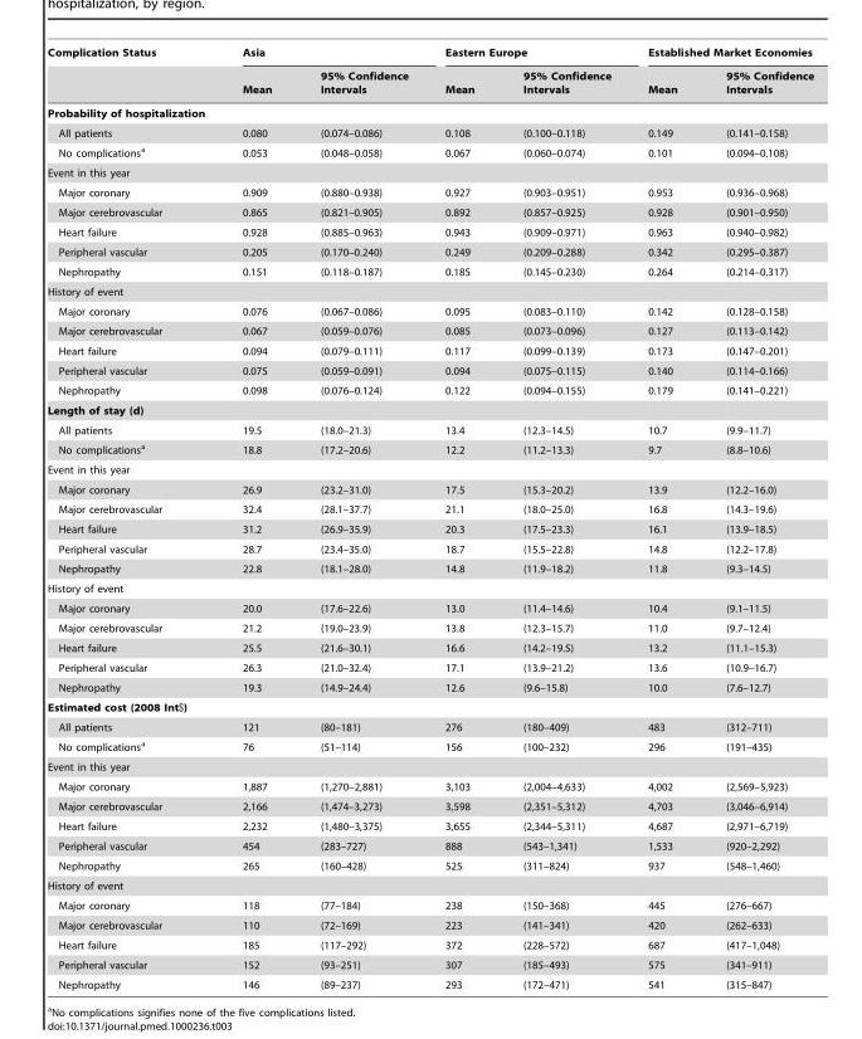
<table><thead><tr><td rowspan="2">Complication Status</td><td colspan="2">Asia</td><td colspan="2">Eastern Europe</td><td colspan="2">Established Market Economies</td></tr><tr><td>Mean</td><td>95% Confidence Intervals</td><td>Mean</td><td>95% Confidence Intervals</td><td>Mean</td><td>95% Confidence Intervals</td></tr></thead><tbody><tr><td colspan="7">Probability of hospitalization</td></tr><tr><td>All patients</td><td>0.080</td><td>(0.074–0.086)</td><td>0.108</td><td>(0.100–0.118)</td><td>0.149</td><td>(0.141–0.158)</td></tr><tr><td>No complications<sup>a</sup></td><td>0.053</td><td>(0.048–0.058)</td><td>0.067</td><td>(0.060–0.074)</td><td>0.101</td><td>(0.094–0.108)</td></tr><tr><td colspan="7">Event in this year</td></tr><tr><td>Major coronary</td><td>0.909</td><td>(0.880–0.938)</td><td>0.927</td><td>(0.903–0.951)</td><td>0.953</td><td>(0.936–0.968)</td></tr><tr><td>Major cerebrovascular</td><td>0.865</td><td>(0.821–0.905)</td><td>0.892</td><td>(0.857–0.925)</td><td>0.928</td><td>(0.901–0.950)</td></tr><tr><td>Heart failure</td><td>0.928</td><td>(0.885–0.963)</td><td>0.943</td><td>(0.909–0.971)</td><td>0.963</td><td>(0.940–0.982)</td></tr><tr><td>Peripheral vascular</td><td>0.205</td><td>(0.170–0.240)</td><td>0.249</td><td>(0.209–0.288)</td><td>0.342</td><td>(0.295–0.387)</td></tr><tr><td>Nephropathy</td><td>0.151</td><td>(0.118–0.187)</td><td>0.185</td><td>(0.145–0.230)</td><td>0.264</td><td>(0.214–0.317)</td></tr><tr><td colspan="7">History of event</td></tr><tr><td>Major coronary</td><td>0.076</td><td>(0.067–0.086)</td><td>0.095</td><td>(0.083–0.110)</td><td>0.142</td><td>(0.128–0.158)</td></tr><tr><td>Major cerebrovascular</td><td>0.067</td><td>(0.059–0.076)</td><td>0.085</td><td>(0.073–0.096)</td><td>0.127</td><td>(0.113–0.142)</td></tr><tr><td>Heart failure</td><td>0.094</td><td>(0.079–0.111)</td><td>0.117</td><td>(0.099–0.139)</td><td>0.173</td><td>(0.147–0.201)</td></tr><tr><td>Peripheral vascular</td><td>0.075</td><td>(0.059–0.091)</td><td>0.094</td><td>(0.075–0.115)</td><td>0.140</td><td>(0.114–0.166)</td></tr><tr><td>Nephropathy</td><td>0.098</td><td>(0.076–0.124)</td><td>0.122</td><td>(0.094–0.155)</td><td>0.179</td><td>(0.141–0.221)</td></tr><tr><td colspan="7">Length of stay (d)</td></tr><tr><td>All patients</td><td>19.5</td><td>(18.0–21.3)</td><td>13.4</td><td>(12.3–14.5)</td><td>10.7</td><td>(9.9–11.7)</td></tr><tr><td>No complications<sup>a</sup></td><td>18.8</td><td>(17.2–20.6)</td><td>12.2</td><td>(11.2–13.3)</td><td>9.7</td><td>(8.8–10.6)</td></tr><tr><td colspan="7">Event in this year</td></tr><tr><td>Major coronary</td><td>26.9</td><td>(23.2–31.0)</td><td>17.5</td><td>(15.3–20.2)</td><td>13.9</td><td>(12.2–16.0)</td></tr><tr><td>Major cerebrovascular</td><td>32.4</td><td>(28.1–37.7)</td><td>21.1</td><td>(18.0–25.0)</td><td>16.8</td><td>(14.3–19.6)</td></tr><tr><td>Heart failure</td><td>31.2</td><td>(26.9–35.9)</td><td>20.3</td><td>(17.5–23.3)</td><td>16.1</td><td>(13.9–18.5)</td></tr><tr><td>Peripheral vascular</td><td>28.7</td><td>(23.4–35.0)</td><td>18.7</td><td>(15.5–22.8)</td><td>14.8</td><td>(12.2–17.8)</td></tr><tr><td>Nephropathy</td><td>22.8</td><td>(18.1–28.0)</td><td>14.8</td><td>(11.9–18.2)</td><td>11.8</td><td>(9.3–14.5)</td></tr><tr><td colspan="7">History of event</td></tr><tr><td>Major coronary</td><td>20.0</td><td>(17.6–22.6)</td><td>13.0</td><td>(11.4–14.6)</td><td>10.4</td><td>(9.1–11.5)</td></tr><tr><td>Major cerebrovascular</td><td>21.2</td><td>(19.0–23.9)</td><td>13.8</td><td>(12.3–15.7)</td><td>11.0</td><td>(9.7–12.4)</td></tr><tr><td>Heart failure</td><td>25.5</td><td>(21.6–30.1)</td><td>16.6</td><td>(14.2–19.5)</td><td>13.2</td><td>(11.1–15.3)</td></tr><tr><td>Peripheral vascular</td><td>26.3</td><td>(21.0–32.4)</td><td>17.1</td><td>(13.9–21.2)</td><td>13.6</td><td>(10.9–16.7)</td></tr><tr><td>Nephropathy</td><td>19.3</td><td>(14.9–24.4)</td><td>12.6</td><td>(9.6–15.8)</td><td>10.0</td><td>(7.6–12.7)</td></tr><tr><td colspan="7">Estimated cost (2008 Int$)</td></tr><tr><td>All patients</td><td>121</td><td>(80–181)</td><td>276</td><td>(180–409)</td><td>483</td><td>(312–711)</td></tr><tr><td>No complications<sup>a</sup></td><td>76</td><td>(51–114)</td><td>156</td><td>(100–232)</td><td>296</td><td>(191–435)</td></tr><tr><td colspan="7">Event in this year</td></tr><tr><td>Major coronary</td><td>1,887</td><td>(1,270–2,881)</td><td>3,103</td><td>(2,004–4,633)</td><td>4,002</td><td>(2,569–5,923)</td></tr><tr><td>Major cerebrovascular</td><td>2,166</td><td>(1,474–3,273)</td><td>3,598</td><td>(2,351–5,312)</td><td>4,703</td><td>(3,046–6,914)</td></tr><tr><td>Heart failure</td><td>2,232</td><td>(1,480–3,375)</td><td>3,655</td><td>(2,344–5,311)</td><td>4,687</td><td>(2,971–6,719)</td></tr><tr><td>Peripheral vascular</td><td>454</td><td>(283–727)</td><td>888</td><td>(543–1,341)</td><td>1,533</td><td>(920–2,292)</td></tr><tr><td>Nephropathy</td><td>265</td><td>(160–428)</td><td>525</td><td>(311–824)</td><td>937</td><td>(548–1,460)</td></tr><tr><td colspan="7">History of event</td></tr><tr><td>Major coronary</td><td>118</td><td>(77–184)</td><td>238</td><td>(150–368)</td><td>445</td><td>(276–667)</td></tr><tr><td>Major cerebrovascular</td><td>110</td><td>(72–169)</td><td>223</td><td>(141–341)</td><td>420</td><td>(262–633)</td></tr><tr><td>Heart failure</td><td>185</td><td>(117–292)</td><td>372</td><td>(228–572)</td><td>687</td><td>(417–1,048)</td></tr><tr><td>Peripheral vascular</td><td>152</td><td>(93–251)</td><td>307</td><td>(185–493)</td><td>575</td><td>(341–911)</td></tr><tr><td>Nephropathy</td><td>146</td><td>(89–237)</td><td>293</td><td>(172–471)</td><td>541</td><td>(315–847)</td></tr></tbody></table>